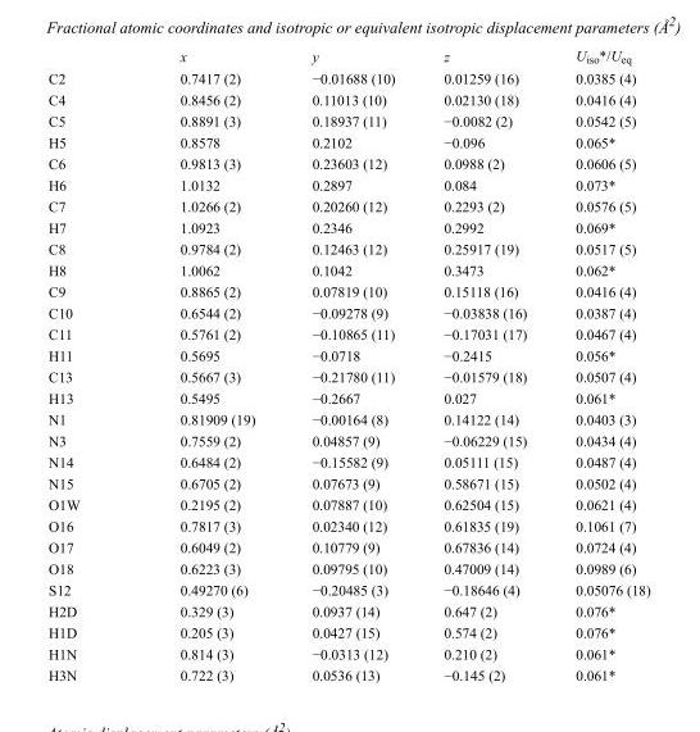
<table><thead><tr><td></td><td>x</td><td>y</td><td>z</td><td>U<sub>iso</sub>*/U<sub>eq</sub></td></tr></thead><tbody><tr><td>C2</td><td>0.7417 (2)</td><td>−0.01688 (10)</td><td>0.01259 (16)</td><td>0.0385 (4)</td></tr><tr><td>C4</td><td>0.8456 (2)</td><td>0.11013 (10)</td><td>0.02130 (18)</td><td>0.0416 (4)</td></tr><tr><td>C5</td><td>0.8891 (3)</td><td>0.18937 (11)</td><td>−0.0082 (2)</td><td>0.0542 (5)</td></tr><tr><td>H5</td><td>0.8578</td><td>0.2102</td><td>−0.096</td><td>0.065*</td></tr><tr><td>C6</td><td>0.9813 (3)</td><td>0.23603 (12)</td><td>0.0988 (2)</td><td>0.0606 (5)</td></tr><tr><td>H6</td><td>1.0132</td><td>0.2897</td><td>0.084</td><td>0.073*</td></tr><tr><td>C7</td><td>1.0266 (2)</td><td>0.20260 (12)</td><td>0.2293 (2)</td><td>0.0576 (5)</td></tr><tr><td>H7</td><td>1.0923</td><td>0.2346</td><td>0.2992</td><td>0.069*</td></tr><tr><td>C8</td><td>0.9784 (2)</td><td>0.12463 (12)</td><td>0.25917 (19)</td><td>0.0517 (5)</td></tr><tr><td>H8</td><td>1.0062</td><td>0.1042</td><td>0.3473</td><td>0.062*</td></tr><tr><td>C9</td><td>0.8865 (2)</td><td>0.07819 (10)</td><td>0.15118 (16)</td><td>0.0416 (4)</td></tr><tr><td>C10</td><td>0.6544 (2)</td><td>−0.09278 (9)</td><td>−0.03838 (16)</td><td>0.0387 (4)</td></tr><tr><td>C11</td><td>0.5761 (2)</td><td>−0.10865 (11)</td><td>−0.17031 (17)</td><td>0.0467 (4)</td></tr><tr><td>H11</td><td>0.5695</td><td>−0.0718</td><td>−0.2415</td><td>0.056*</td></tr><tr><td>C13</td><td>0.5667 (3)</td><td>−0.21780 (11)</td><td>−0.01579 (18)</td><td>0.0507 (4)</td></tr><tr><td>H13</td><td>0.5495</td><td>−0.2667</td><td>0.027</td><td>0.061*</td></tr><tr><td>N1</td><td>0.81909 (19)</td><td>−0.00164 (8)</td><td>0.14122 (14)</td><td>0.0403 (3)</td></tr><tr><td>N3</td><td>0.7559 (2)</td><td>0.04857 (9)</td><td>−0.06229 (15)</td><td>0.0434 (4)</td></tr><tr><td>N14</td><td>0.6484 (2)</td><td>−0.15582 (9)</td><td>0.05111 (15)</td><td>0.0487 (4)</td></tr><tr><td>N15</td><td>0.6705 (2)</td><td>0.07673 (9)</td><td>0.58671 (15)</td><td>0.0502 (4)</td></tr><tr><td>O1W</td><td>0.2195 (2)</td><td>0.07887 (10)</td><td>0.62504 (15)</td><td>0.0621 (4)</td></tr><tr><td>O16</td><td>0.7817 (3)</td><td>0.02340 (12)</td><td>0.61835 (19)</td><td>0.1061 (7)</td></tr><tr><td>O17</td><td>0.6049 (2)</td><td>0.10779 (9)</td><td>0.67836 (14)</td><td>0.0724 (4)</td></tr><tr><td>O18</td><td>0.6223 (3)</td><td>0.09795 (10)</td><td>0.47009 (14)</td><td>0.0989 (6)</td></tr><tr><td>S12</td><td>0.49270 (6)</td><td>−0.20485 (3)</td><td>−0.18646 (4)</td><td>0.05076 (18)</td></tr><tr><td>H2D</td><td>0.329 (3)</td><td>0.0937 (14)</td><td>0.647 (2)</td><td>0.076*</td></tr><tr><td>H1D</td><td>0.205 (3)</td><td>0.0427 (15)</td><td>0.574 (2)</td><td>0.076*</td></tr><tr><td>H1N</td><td>0.814 (3)</td><td>−0.0313 (12)</td><td>0.210 (2)</td><td>0.061*</td></tr><tr><td>H3N</td><td>0.722 (3)</td><td>0.0536 (13)</td><td>−0.145 (2)</td><td>0.061*</td></tr></tbody></table>